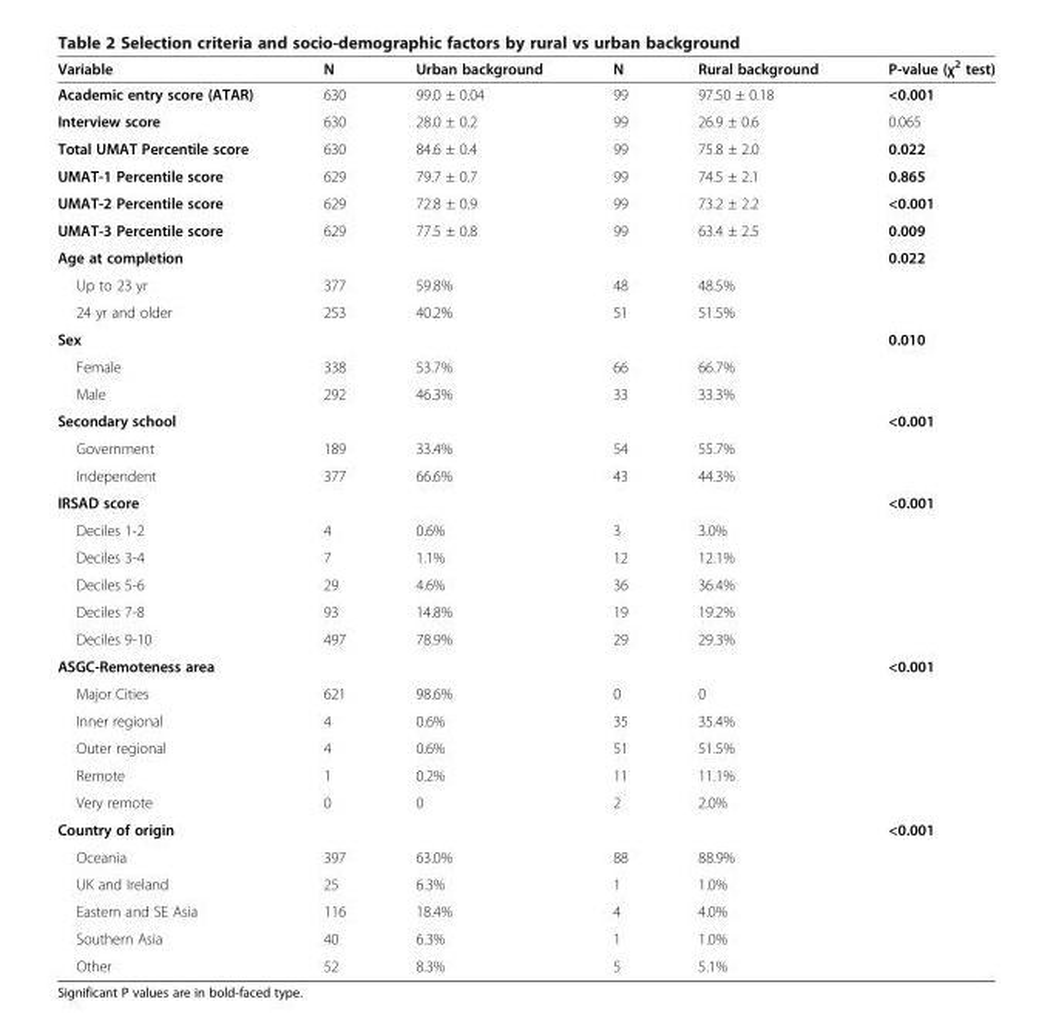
<table><thead><tr><td>Variable</td><td>N</td><td>Urban background</td><td>N</td><td>Rural background</td><td>P-value (χ<sup>2</sup> test)</td></tr></thead><tbody><tr><td>Academic entry score (ATAR)</td><td>630</td><td>99.0 ± 0.04</td><td>99</td><td>97.50 ± 0.18</td><td>&lt;0.001</td></tr><tr><td>Interview score</td><td>630</td><td>28.0 ± 0.2</td><td>99</td><td>26.9 ± 0.6</td><td>0.065</td></tr><tr><td>Total UMAT Percentile score</td><td>630</td><td>84.6 ± 0.4</td><td>99</td><td>75.8 ± 2.0</td><td>0.022</td></tr><tr><td>UMAT-1 Percentile score</td><td>629</td><td>79.7 ± 0.7</td><td>99</td><td>74.5 ± 2.1</td><td>0.865</td></tr><tr><td>UMAT-2 Percentile score</td><td>629</td><td>72.8 ± 0.9</td><td>99</td><td>73.2 ± 2.2</td><td>&lt;0.001</td></tr><tr><td>UMAT-3 Percentile score</td><td>629</td><td>77.5 ± 0.8</td><td>99</td><td>63.4 ± 2.5</td><td>0.009</td></tr><tr><td>Age at completion</td><td></td><td></td><td></td><td></td><td>0.022</td></tr><tr><td>Up to 23 yr</td><td>377</td><td>59.8%</td><td>48</td><td>48.5%</td><td></td></tr><tr><td>24 yr and older</td><td>253</td><td>40.2%</td><td>51</td><td>51.5%</td><td></td></tr><tr><td>Sex</td><td></td><td></td><td></td><td></td><td>0.010</td></tr><tr><td>Female</td><td>338</td><td>53.7%</td><td>66</td><td>66.7%</td><td></td></tr><tr><td>Male</td><td>292</td><td>46.3%</td><td>33</td><td>33.3%</td><td></td></tr><tr><td>Secondary school</td><td></td><td></td><td></td><td></td><td>&lt;0.001</td></tr><tr><td>Government</td><td>189</td><td>33.4%</td><td>54</td><td>55.7%</td><td></td></tr><tr><td>Independent</td><td>377</td><td>66.6%</td><td>43</td><td>44.3%</td><td></td></tr><tr><td>IRSAD score</td><td></td><td></td><td></td><td></td><td>&lt;0.001</td></tr><tr><td>Deciles 1-2</td><td>4</td><td>0.6%</td><td>3</td><td>3.0%</td><td></td></tr><tr><td>Deciles 3-4</td><td>7</td><td>1.1%</td><td>12</td><td>12.1%</td><td></td></tr><tr><td>Deciles 5-6</td><td>29</td><td>4.6%</td><td>36</td><td>36.4%</td><td></td></tr><tr><td>Deciles 7-8</td><td>93</td><td>14.8%</td><td>19</td><td>19.2%</td><td></td></tr><tr><td>Deciles 9-10</td><td>497</td><td>78.9%</td><td>29</td><td>29.3%</td><td></td></tr><tr><td>ASGC-Remoteness area</td><td></td><td></td><td></td><td></td><td>&lt;0.001</td></tr><tr><td>Major Cities</td><td>621</td><td>98.6%</td><td>0</td><td>0</td><td></td></tr><tr><td>Inner regional</td><td>4</td><td>0.6%</td><td>35</td><td>35.4%</td><td></td></tr><tr><td>Outer regional</td><td>4</td><td>0.6%</td><td>51</td><td>51.5%</td><td></td></tr><tr><td>Remote</td><td>1</td><td>0.2%</td><td>11</td><td>11.1%</td><td></td></tr><tr><td>Very remote</td><td>0</td><td>0</td><td>2</td><td>2.0%</td><td></td></tr><tr><td>Country of origin</td><td></td><td></td><td></td><td></td><td>&lt;0.001</td></tr><tr><td>Oceania</td><td>397</td><td>63.0%</td><td>88</td><td>88.9%</td><td></td></tr><tr><td>UK and Ireland</td><td>25</td><td>6.3%</td><td>1</td><td>1.0%</td><td></td></tr><tr><td>Eastern and SE Asia</td><td>116</td><td>18.4%</td><td>4</td><td>4.0%</td><td></td></tr><tr><td>Southern Asia</td><td>40</td><td>6.3%</td><td>1</td><td>1.0%</td><td></td></tr><tr><td>Other</td><td>52</td><td>8.3%</td><td>5</td><td>5.1%</td><td></td></tr></tbody></table>